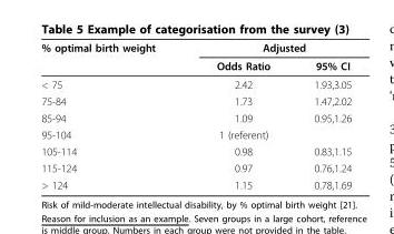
<table><thead><tr><td rowspan="2">% optimal birth weight</td><td colspan="2">Adjusted</td></tr><tr><td>Odds Ratio</td><td>95% CI</td></tr></thead><tbody><tr><td>&lt; 75</td><td>2.42</td><td>1.93,3.05</td></tr><tr><td>75-84</td><td>1.73</td><td>1.47,2.02</td></tr><tr><td>85-94</td><td>1.09</td><td>0.95,1.26</td></tr><tr><td>95-104</td><td>1 (referent)</td><td></td></tr><tr><td>105-114</td><td>0.98</td><td>0.83,1.15</td></tr><tr><td>115-124</td><td>0.97</td><td>0.76,1.24</td></tr><tr><td>&gt; 124</td><td>1.15</td><td>0.78,1.69</td></tr></tbody></table>